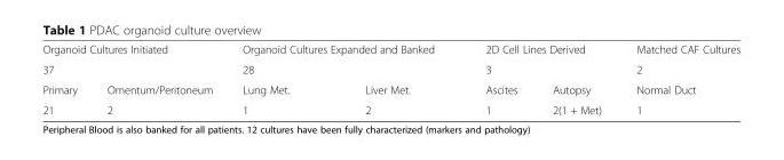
<table><tbody><tr><td colspan="2">Organoid Cultures Initiated</td><td colspan="2">Organoid Cultures Expanded and Banked</td><td colspan="2">2D Cell Lines Derived</td><td>Matched CAF Cultures</td></tr><tr><td colspan="2">37</td><td>28</td><td></td><td colspan="2">3</td><td>2</td></tr><tr><td>Primary</td><td>Omentum/Peritoneum</td><td>Lung Met.</td><td>Liver Met.</td><td>Ascites</td><td>Autopsy</td><td>Normal Duct</td></tr><tr><td>21</td><td>2</td><td>1</td><td>2</td><td>1</td><td>2(1 + Met)</td><td>1</td></tr></tbody></table>